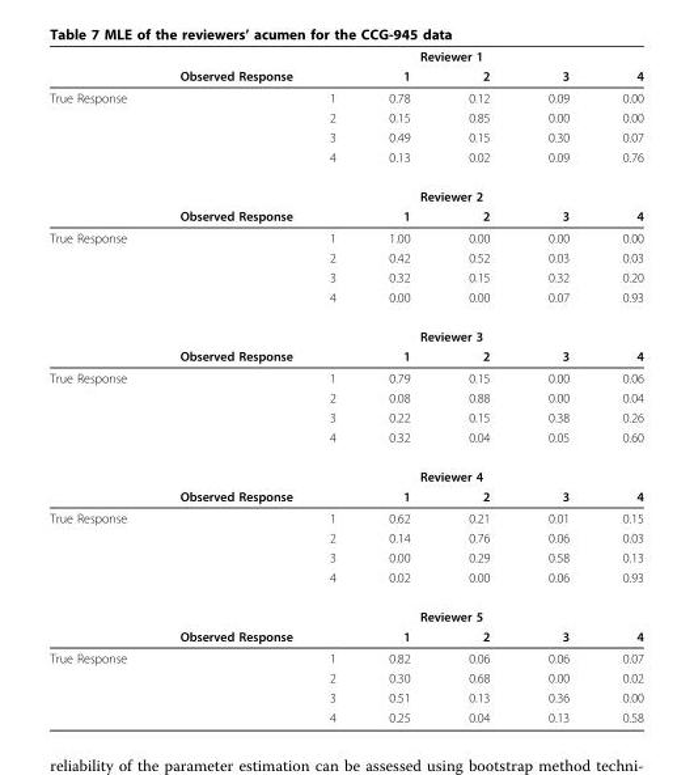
<table><thead><tr><td rowspan="2"></td><td rowspan="2">Observed Response</td><td rowspan="2">1</td><td colspan="2">Reviewer 1</td><td rowspan="2">4</td></tr><tr><td>2</td><td>3</td></tr></thead><tbody><tr><td rowspan="6">True Response</td><td>1</td><td>0.78</td><td>0.12</td><td>0.09</td><td>0.00</td></tr><tr><td>2</td><td>0.15</td><td>0.85</td><td>0.00</td><td>0.00</td></tr><tr><td>3</td><td>0.49</td><td>0.15</td><td>0.30</td><td>0.07</td></tr><tr><td>4</td><td>0.13</td><td>0.02</td><td>0.09</td><td>0.76</td></tr><tr><td></td><td></td><td colspan="2">Reviewer 2</td><td></td></tr><tr><td>Observed Response</td><td>1</td><td>2</td><td>3</td><td>4</td></tr><tr><td rowspan="6">True Response</td><td>1</td><td>1.00</td><td>0.00</td><td>0.00</td><td>0.00</td></tr><tr><td>2</td><td>0.42</td><td>0.52</td><td>0.03</td><td>0.03</td></tr><tr><td>3</td><td>0.32</td><td>0.15</td><td>0.32</td><td>0.20</td></tr><tr><td>4</td><td>0.00</td><td>0.00</td><td>0.07</td><td>0.93</td></tr><tr><td></td><td></td><td colspan="2">Reviewer 3</td><td></td></tr><tr><td>Observed Response</td><td>1</td><td>2</td><td>3</td><td>4</td></tr><tr><td rowspan="6">True Response</td><td>1</td><td>0.79</td><td>0.15</td><td>0.00</td><td>0.06</td></tr><tr><td>2</td><td>0.08</td><td>0.88</td><td>0.00</td><td>0.04</td></tr><tr><td>3</td><td>0.22</td><td>0.15</td><td>0.38</td><td>0.26</td></tr><tr><td>4</td><td>0.32</td><td>0.04</td><td>0.05</td><td>0.60</td></tr><tr><td></td><td></td><td colspan="2">Reviewer 4</td><td></td></tr><tr><td>Observed Response</td><td>1</td><td>2</td><td>3</td><td>4</td></tr><tr><td rowspan="6">True Response</td><td>1</td><td>0.62</td><td>0.21</td><td>0.01</td><td>0.15</td></tr><tr><td>2</td><td>0.14</td><td>0.76</td><td>0.06</td><td>0.03</td></tr><tr><td>3</td><td>0.00</td><td>0.29</td><td>0.58</td><td>0.13</td></tr><tr><td>4</td><td>0.02</td><td>0.00</td><td>0.06</td><td>0.93</td></tr><tr><td></td><td></td><td colspan="2">Reviewer 5</td><td></td></tr><tr><td>Observed Response</td><td>1</td><td>2</td><td>3</td><td>4</td></tr><tr><td rowspan="4">True Response</td><td>1</td><td>0.82</td><td>0.06</td><td>0.06</td><td>0.07</td></tr><tr><td>2</td><td>0.30</td><td>0.68</td><td>0.00</td><td>0.02</td></tr><tr><td>3</td><td>0.51</td><td>0.13</td><td>0.36</td><td>0.00</td></tr><tr><td>4</td><td>0.25</td><td>0.04</td><td>0.13</td><td>0.58</td></tr></tbody></table>